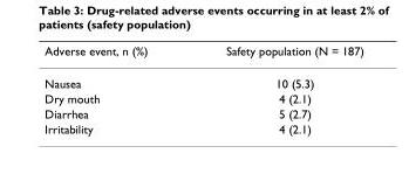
<table><thead><tr><td>Adverse event, n (%)</td><td>Safety population (N = 187)</td></tr></thead><tbody><tr><td>Nausea</td><td>10 (5.3)</td></tr><tr><td>Dry mouth</td><td>4 (2.1)</td></tr><tr><td>Diarrhea</td><td>5 (2.7)</td></tr><tr><td>Irritability</td><td>4 (2.1)</td></tr></tbody></table>